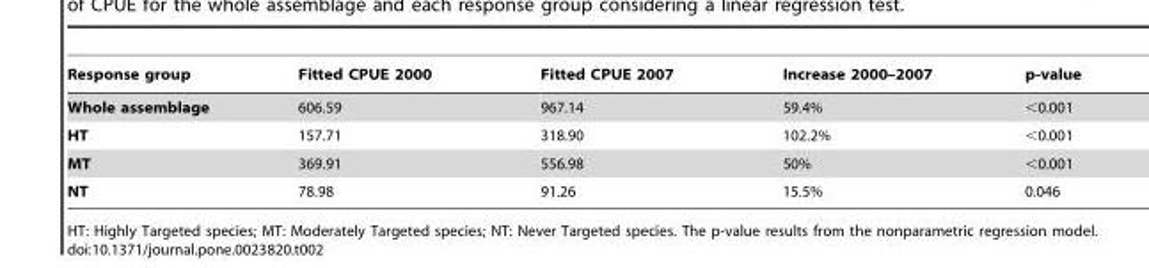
<table><thead><tr><td>Response group</td><td>Fitted CPUE 2000</td><td>Fitted CPUE 2007</td><td>Increase 2000–2007</td><td>p-value</td></tr></thead><tbody><tr><td>Whole assemblage</td><td>606.59</td><td>967.14</td><td>59.4%</td><td>&lt;0.001</td></tr><tr><td>HT</td><td>157.71</td><td>318.90</td><td>102.2%</td><td>&lt;0.001</td></tr><tr><td>MT</td><td>369.91</td><td>556.98</td><td>50%</td><td>&lt;0.001</td></tr><tr><td>NT</td><td>78.98</td><td>91.26</td><td>15.5%</td><td>0.046</td></tr></tbody></table>